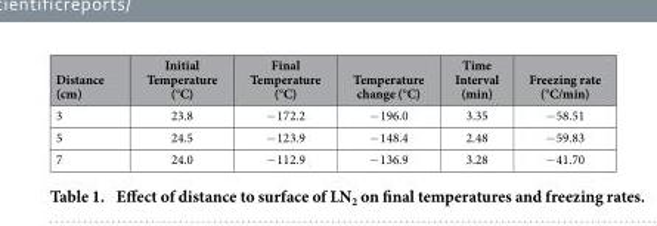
<table><thead><tr><td>Distance (cm)</td><td>Initial Temperature (°C)</td><td>Final Temperature (°C)</td><td>Temperature change (°C)</td><td>Time Interval (min)</td><td>Freezing rate (°C/min)</td></tr></thead><tbody><tr><td>3</td><td>23.8</td><td>− 172.2</td><td>− 196.0</td><td>3.35</td><td>− 58.51</td></tr><tr><td>5</td><td>24.5</td><td>− 123.9</td><td>− 148.4</td><td>2.48</td><td>− 59.83</td></tr><tr><td>7</td><td>24.0</td><td>− 112.9</td><td>− 136.9</td><td>3.28</td><td>− 41.70</td></tr></tbody></table>